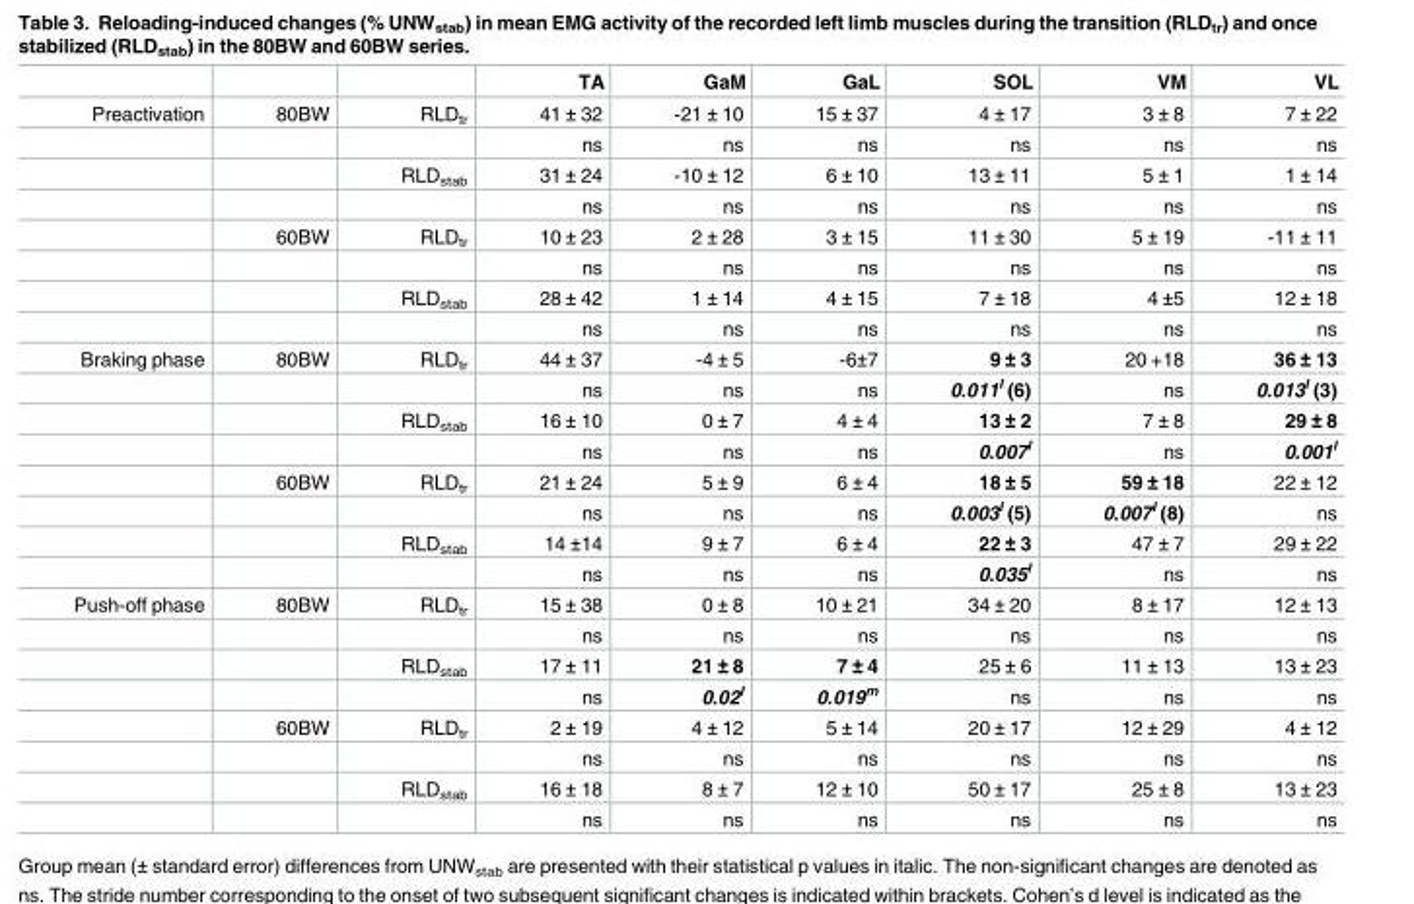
<table><thead><tr><td></td><td></td><td></td><td>TA</td><td>GaM</td><td>GaL</td><td>SOL</td><td>VM</td><td>VL</td></tr></thead><tbody><tr><td rowspan="8">Preactivation</td><td>80BW</td><td>RLD<sub>tr</sub></td><td>41 ± 32</td><td>-21 ± 10</td><td>15 ± 37</td><td>4 ± 17</td><td>3 ± 8</td><td>7 ± 22</td></tr><tr><td></td><td></td><td>ns</td><td>ns</td><td>ns</td><td>ns</td><td>ns</td><td>ns</td></tr><tr><td></td><td>RLD<sub>stab</sub></td><td>31 ± 24</td><td>-10 ± 12</td><td>6 ± 10</td><td>13 ± 11</td><td>5 ± 1</td><td>1 ± 14</td></tr><tr><td></td><td></td><td>ns</td><td>ns</td><td>ns</td><td>ns</td><td>ns</td><td>ns</td></tr><tr><td>60BW</td><td>RLD<sub>tr</sub></td><td>10 ± 23</td><td>2 ± 28</td><td>3 ± 15</td><td>11 ± 30</td><td>5 ± 19</td><td>-11 ± 11</td></tr><tr><td></td><td></td><td>ns</td><td>ns</td><td>ns</td><td>ns</td><td>ns</td><td>ns</td></tr><tr><td></td><td>RLD<sub>stab</sub></td><td>28 ± 42</td><td>1 ± 14</td><td>4 ± 15</td><td>7 ± 18</td><td>4 ±5</td><td>12 ± 18</td></tr><tr><td></td><td></td><td>ns</td><td>ns</td><td>ns</td><td>ns</td><td>ns</td><td>ns</td></tr><tr><td rowspan="8">Braking phase</td><td>80BW</td><td>RLD<sub>tr</sub></td><td>44 ± 37</td><td>-4 ± 5</td><td>-6±7</td><td>9 ± 3</td><td>20 +18</td><td>36 ± 13</td></tr><tr><td></td><td></td><td>ns</td><td>ns</td><td>ns</td><td>0.011<sup>l</sup> (6)</td><td>ns</td><td>0.013<sup>l</sup> (3)</td></tr><tr><td></td><td>RLD<sub>stab</sub></td><td>16 ± 10</td><td>0 ± 7</td><td>4 ± 4</td><td>13 ± 2</td><td>7 ± 8</td><td>29 ± 8</td></tr><tr><td></td><td></td><td>ns</td><td>ns</td><td>ns</td><td>0.007<sup>l</sup></td><td>ns</td><td>0.001<sup>l</sup></td></tr><tr><td>60BW</td><td>RLD<sub>tr</sub></td><td>21 ± 24</td><td>5 ± 9</td><td>6 ± 4</td><td>18 ± 5</td><td>59 ± 18</td><td>22 ± 12</td></tr><tr><td></td><td></td><td>ns</td><td>ns</td><td>ns</td><td>0.003<sup>l</sup> (5)</td><td>0.007<sup>l</sup> (8)</td><td>ns</td></tr><tr><td></td><td>RLD<sub>stab</sub></td><td>14 ±14</td><td>9 ± 7</td><td>6 ± 4</td><td>22 ± 3</td><td>47 ± 7</td><td>29 ± 22</td></tr><tr><td></td><td></td><td>ns</td><td>ns</td><td>ns</td><td>0.035<sup>l</sup></td><td>ns</td><td>ns</td></tr><tr><td rowspan="8">Push-off phase</td><td>80BW</td><td>RLD<sub>tr</sub></td><td>15 ± 38</td><td>0 ± 8</td><td>10 ± 21</td><td>34 ± 20</td><td>8 ± 17</td><td>12 ± 13</td></tr><tr><td></td><td></td><td>ns</td><td>ns</td><td>ns</td><td>ns</td><td>ns</td><td>ns</td></tr><tr><td></td><td>RLD<sub>stab</sub></td><td>17 ± 11</td><td>21 ± 8</td><td>7 ± 4</td><td>25 ± 6</td><td>11 ± 13</td><td>13 ± 23</td></tr><tr><td></td><td></td><td>ns</td><td>0.02<sup>l</sup></td><td>0.019<sup>m</sup></td><td>ns</td><td>ns</td><td>ns</td></tr><tr><td>60BW</td><td>RLD<sub>tr</sub></td><td>2 ± 19</td><td>4 ± 12</td><td>5 ± 14</td><td>20 ± 17</td><td>12 ± 29</td><td>4 ± 12</td></tr><tr><td></td><td></td><td>ns</td><td>ns</td><td>ns</td><td>ns</td><td>ns</td><td>ns</td></tr><tr><td></td><td>RLD<sub>stab</sub></td><td>16 ± 18</td><td>8 ± 7</td><td>12 ± 10</td><td>50 ± 17</td><td>25 ± 8</td><td>13 ± 23</td></tr><tr><td></td><td></td><td>ns</td><td>ns</td><td>ns</td><td>ns</td><td>ns</td><td>ns</td></tr></tbody></table>